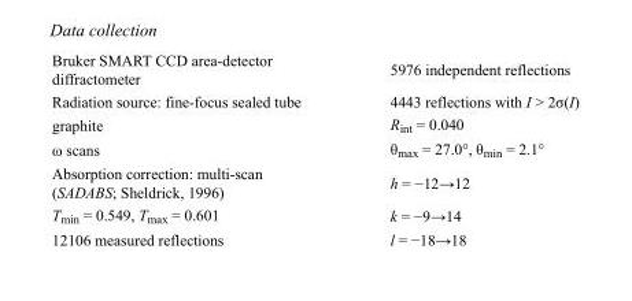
<table><tbody><tr><td>Bruker SMART CCD area-detector diffractometer</td><td>5976 independent reflections</td></tr><tr><td>Radiation source: fine-focus sealed tube</td><td>4443 reflections with I &gt; 2σ(I)</td></tr><tr><td>graphite</td><td>R<sub>int</sub> = 0.040</td></tr><tr><td>ω scans</td><td>θ<sub>max</sub> = 27.0°, θ<sub>min</sub> = 2.1°</td></tr><tr><td>Absorption correction: multi-scan (SADABS; Sheldrick, 1996)</td><td>h = −12→12</td></tr><tr><td>T<sub>min</sub> = 0.549, T<sub>max</sub> = 0.601</td><td>k = −9→14</td></tr><tr><td>12106 measured reflections</td><td>l = −18→18</td></tr></tbody></table>